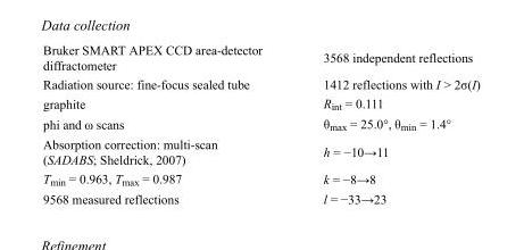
<table><tbody><tr><td>Bruker SMART APEX CCD area-detector diffractometer</td><td>3568 independent reflections</td></tr><tr><td>Radiation source: fine-focus sealed tube</td><td>1412 reflections with I &gt; 2σ(I)</td></tr><tr><td>graphite</td><td>R<sub>int</sub> = 0.111</td></tr><tr><td>phi and ω scans</td><td>θ<sub>max</sub> = 25.0°, θ<sub>min</sub> = 1.4°</td></tr><tr><td>Absorption correction: multi-scan (SADABS; Sheldrick, 2007)</td><td>h = −10→11</td></tr><tr><td>T<sub>min</sub> = 0.963, T<sub>max</sub> = 0.987</td><td>k = −8→8</td></tr><tr><td>9568 measured reflections</td><td>l = −33→23</td></tr></tbody></table>